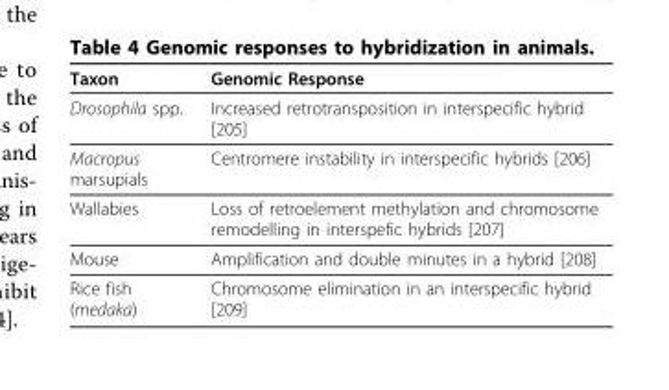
<table><thead><tr><td>Taxon</td><td>Genomic Response</td></tr></thead><tbody><tr><td>Drosophila spp.</td><td>Increased retrotransposition in interspecific hybrid [205]</td></tr><tr><td>Macropus marsupials</td><td>Centromere instability in interspecific hybrids [206]</td></tr><tr><td>Wallabies</td><td>Loss of retroelement methylation and chromosome remodelling in interspefic hybrids [207]</td></tr><tr><td>Mouse</td><td>Amplification and double minutes in a hybrid [208]</td></tr><tr><td>Rice fish (medaka)</td><td>Chromosome elimination in an interspecific hybrid [209]</td></tr></tbody></table>